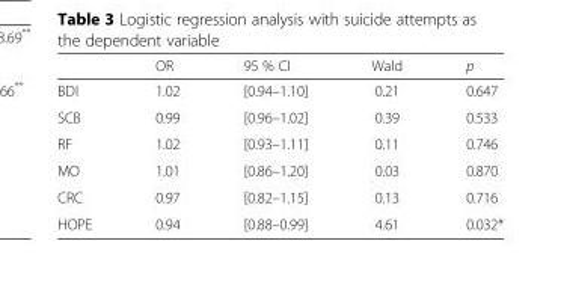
<table><thead><tr><td></td><td>OR</td><td>95 % CI</td><td>Wald</td><td>p</td></tr></thead><tbody><tr><td>BDI</td><td>1.02</td><td>[0.94–1.10]</td><td>0.21</td><td>0.647</td></tr><tr><td>SCB</td><td>0.99</td><td>[0.96–1.02]</td><td>0.39</td><td>0.533</td></tr><tr><td>RF</td><td>1.02</td><td>[0.93–1.11]</td><td>0.11</td><td>0.746</td></tr><tr><td>MO</td><td>1.01</td><td>[0.86–1.20]</td><td>0.03</td><td>0.870</td></tr><tr><td>CRC</td><td>0.97</td><td>[0.82–1.15]</td><td>0.13</td><td>0.716</td></tr><tr><td>HOPE</td><td>0.94</td><td>[0.88–0.99]</td><td>4.61</td><td>0.032*</td></tr></tbody></table>